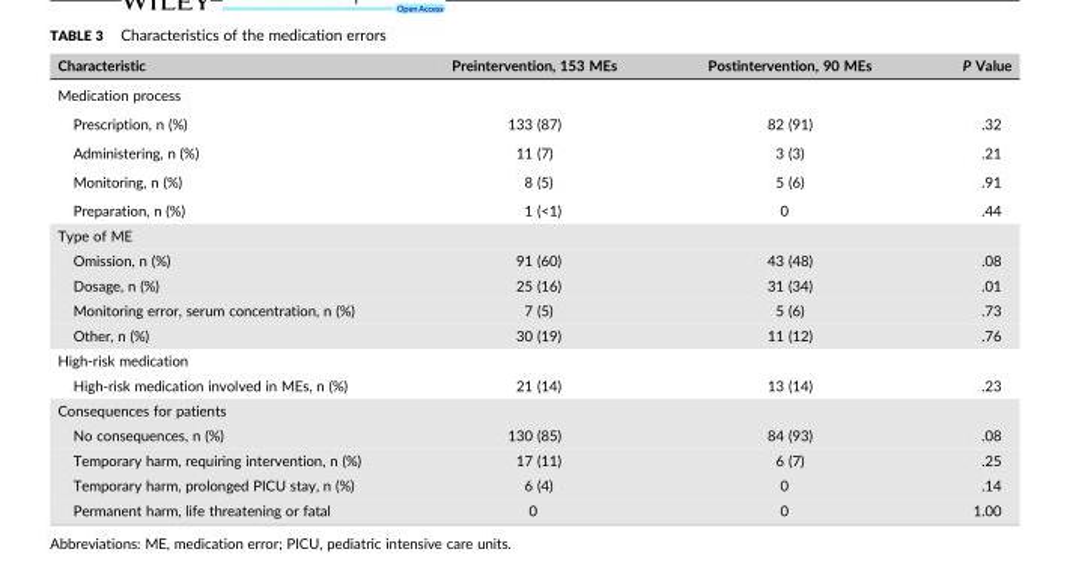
<table><thead><tr><td>Characteristic</td><td>Preintervention, 153 MEs</td><td>Postintervention, 90 MEs</td><td>P Value</td></tr></thead><tbody><tr><td colspan="4">Medication process</td></tr><tr><td>Prescription, n (%)</td><td>133 (87)</td><td>82 (91)</td><td>.32</td></tr><tr><td>Administering, n (%)</td><td>11 (7)</td><td>3 (3)</td><td>.21</td></tr><tr><td>Monitoring, n (%)</td><td>8 (5)</td><td>5 (6)</td><td>.91</td></tr><tr><td>Preparation, n (%)</td><td>1 (&lt;1)</td><td>0</td><td>.44</td></tr><tr><td colspan="4">Type of ME</td></tr><tr><td>Omission, n (%)</td><td>91 (60)</td><td>43 (48)</td><td>.08</td></tr><tr><td>Dosage, n (%)</td><td>25 (16)</td><td>31 (34)</td><td>.01</td></tr><tr><td>Monitoring error, serum concentration, n (%)</td><td>7 (5)</td><td>5 (6)</td><td>.73</td></tr><tr><td>Other, n (%)</td><td>30 (19)</td><td>11 (12)</td><td>.76</td></tr><tr><td colspan="4">High‐risk medication</td></tr><tr><td>High‐risk medication involved in MEs, n (%)</td><td>21 (14)</td><td>13 (14)</td><td>.23</td></tr><tr><td colspan="4">Consequences for patients</td></tr><tr><td>No consequences, n (%)</td><td>130 (85)</td><td>84 (93)</td><td>.08</td></tr><tr><td>Temporary harm, requiring intervention, n (%)</td><td>17 (11)</td><td>6 (7)</td><td>.25</td></tr><tr><td>Temporary harm, prolonged PICU stay, n (%)</td><td>6 (4)</td><td>0</td><td>.14</td></tr><tr><td>Permanent harm, life threatening or fatal</td><td>0</td><td>0</td><td>1.00</td></tr></tbody></table>